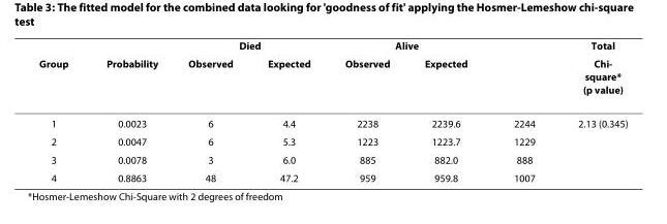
<table><thead><tr><td rowspan="2">Group</td><td rowspan="2">Probability</td><td colspan="2">Died</td><td colspan="2">Alive</td><td rowspan="2"></td><td rowspan="2">Total Chi- square* (p value)</td></tr><tr><td>Observed</td><td>Expected</td><td>Observed</td><td>Expected</td></tr></thead><tbody><tr><td>1</td><td>0.0023</td><td>6</td><td>4.4</td><td>2238</td><td>2239.6</td><td>2244</td><td>2.13 (0.345)</td></tr><tr><td>2</td><td>0.0047</td><td>6</td><td>5.3</td><td>1223</td><td>1223.7</td><td>1229</td><td></td></tr><tr><td>3</td><td>0.0078</td><td>3</td><td>6.0</td><td>885</td><td>882.0</td><td>888</td><td></td></tr><tr><td>4</td><td>0.8863</td><td>48</td><td>47.2</td><td>959</td><td>959.8</td><td>1007</td><td></td></tr></tbody></table>